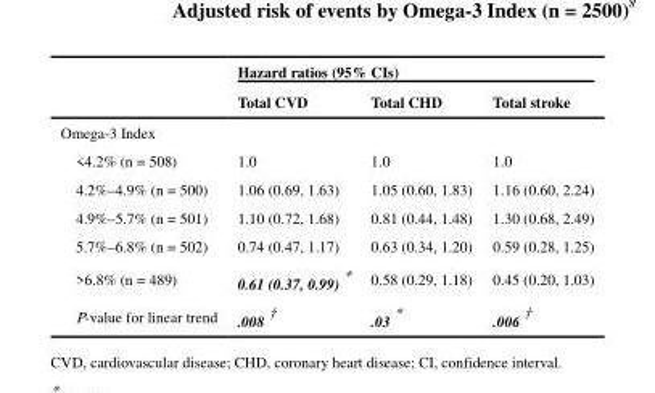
<table><thead><tr><td rowspan="2"></td><td colspan="3">Hazard ratios (95% CIs)</td></tr><tr><td>Total CVD</td><td>Total CHD</td><td>Total stroke</td></tr></thead><tbody><tr><td colspan="4">Omega-3 Index</td></tr><tr><td>&lt;4.2% (n = 508)</td><td>1.0</td><td>1.0</td><td>1.0</td></tr><tr><td>4.2%–4.9% (n = 500)</td><td>1.06 (0.69, 1.63)</td><td>1.05 (0.60, 1.83)</td><td>1.16 (0.60, 2.24)</td></tr><tr><td>4.9%–5.7% (n = 501)</td><td>1.10 (0.72, 1.68)</td><td>0.81 (0.44, 1.48)</td><td>1.30 (0.68, 2.49)</td></tr><tr><td>5.7%–6.8% (n = 502)</td><td>0.74 (0.47, 1.17)</td><td>0.63 (0.34, 1.20)</td><td>0.59 (0.28, 1.25)</td></tr><tr><td>&gt;6.8% (n = 489)</td><td>0.61 (0.37, 0.99) *</td><td>0.58 (0.29, 1.18)</td><td>0.45 (0.20, 1.03)</td></tr><tr><td>P-value for linear trend</td><td>.008 <sup>†</sup></td><td>.03 *</td><td>.006 <sup>†</sup></td></tr></tbody></table>